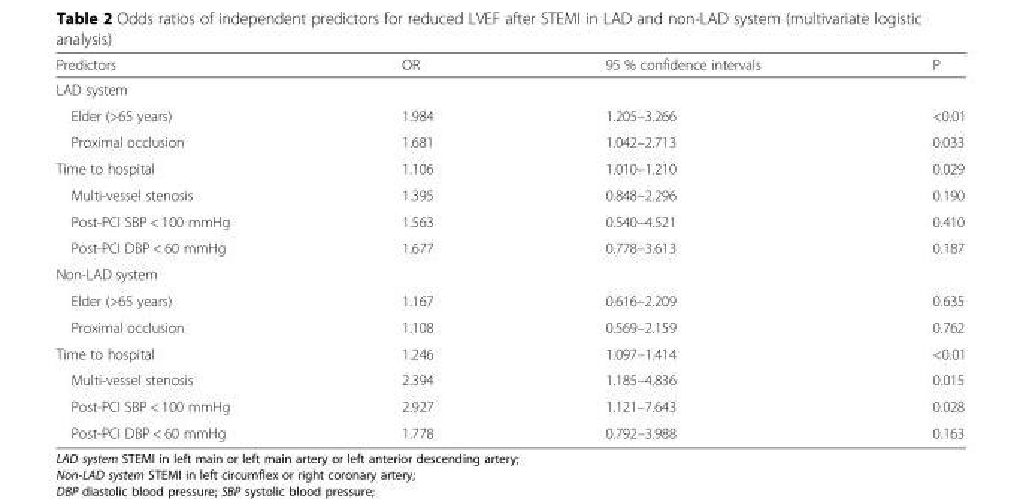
<table><thead><tr><td>Predictors</td><td>OR</td><td>95 % confidence intervals</td><td>P</td></tr></thead><tbody><tr><td colspan="4">LAD system</td></tr><tr><td>Elder (&gt;65 years)</td><td>1.984</td><td>1.205–3.266</td><td>&lt;0.01</td></tr><tr><td>Proximal occlusion</td><td>1.681</td><td>1.042–2.713</td><td>0.033</td></tr><tr><td>Time to hospital</td><td>1.106</td><td>1.010–1.210</td><td>0.029</td></tr><tr><td>Multi-vessel stenosis</td><td>1.395</td><td>0.848–2.296</td><td>0.190</td></tr><tr><td>Post-PCI SBP &lt; 100 mmHg</td><td>1.563</td><td>0.540–4.521</td><td>0.410</td></tr><tr><td>Post-PCI DBP &lt; 60 mmHg</td><td>1.677</td><td>0.778–3.613</td><td>0.187</td></tr><tr><td colspan="4">Non-LAD system</td></tr><tr><td>Elder (&gt;65 years)</td><td>1.167</td><td>0.616–2.209</td><td>0.635</td></tr><tr><td>Proximal occlusion</td><td>1.108</td><td>0.569–2.159</td><td>0.762</td></tr><tr><td>Time to hospital</td><td>1.246</td><td>1.097–1.414</td><td>&lt;0.01</td></tr><tr><td>Multi-vessel stenosis</td><td>2.394</td><td>1.185–4.836</td><td>0.015</td></tr><tr><td>Post-PCI SBP &lt; 100 mmHg</td><td>2.927</td><td>1.121–7.643</td><td>0.028</td></tr><tr><td>Post-PCI DBP &lt; 60 mmHg</td><td>1.778</td><td>0.792–3.988</td><td>0.163</td></tr></tbody></table>